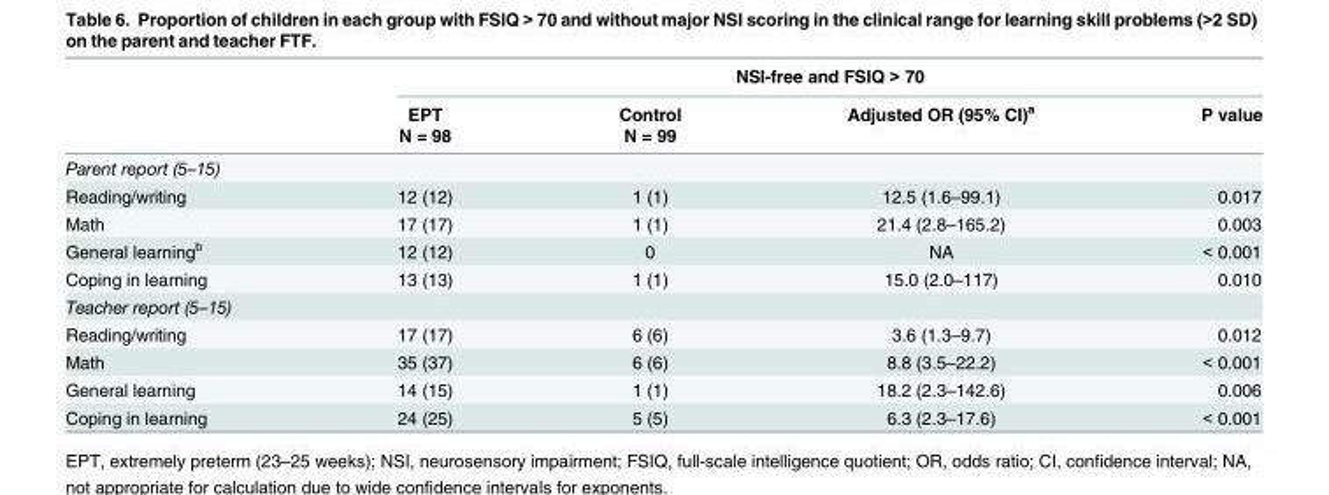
<table><thead><tr><td rowspan="3"></td><td colspan="4">NSI-free and FSIQ &gt; 70</td></tr><tr><td rowspan="2">EPT N = 98</td><td rowspan="2">Control N = 99</td><td rowspan="2">Adjusted OR (95% CI)<sup>a</sup></td><td rowspan="2">P value</td></tr><tr></tr></thead><tbody><tr><td colspan="5">Parent report (5–15)</td></tr><tr><td>Reading/writing</td><td>12 (12)</td><td>1 (1)</td><td>12.5 (1.6–99.1)</td><td>0.017</td></tr><tr><td>Math</td><td>17 (17)</td><td>1 (1)</td><td>21.4 (2.8–165.2)</td><td>0.003</td></tr><tr><td>General learning<sup>b</sup></td><td>12 (12)</td><td>0</td><td>NA</td><td>&lt; 0.001</td></tr><tr><td>Coping in learning</td><td>13 (13)</td><td>1 (1)</td><td>15.0 (2.0–117)</td><td>0.010</td></tr><tr><td colspan="5">Teacher report (5–15)</td></tr><tr><td>Reading/writing</td><td>17 (17)</td><td>6 (6)</td><td>3.6 (1.3–9.7)</td><td>0.012</td></tr><tr><td>Math</td><td>35 (37)</td><td>6 (6)</td><td>8.8 (3.5–22.2)</td><td>&lt; 0.001</td></tr><tr><td>General learning</td><td>14 (15)</td><td>1 (1)</td><td>18.2 (2.3–142.6)</td><td>0.006</td></tr><tr><td>Coping in learning</td><td>24 (25)</td><td>5 (5)</td><td>6.3 (2.3–17.6)</td><td>&lt; 0.001</td></tr></tbody></table>